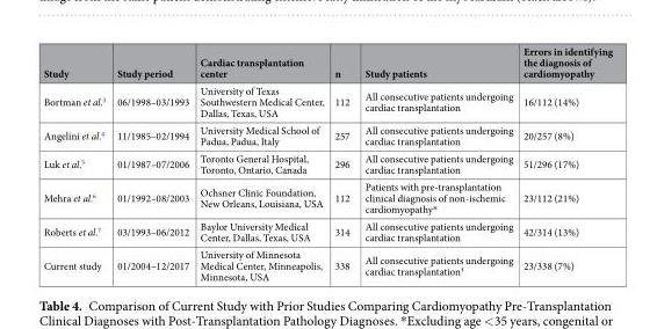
<table><thead><tr><td>Study</td><td>Study period</td><td>Cardiac transplantation center</td><td>n</td><td>Study patients</td><td>Errors in identifying the diagnosis of cardiomyopathy</td></tr></thead><tbody><tr><td>Bortman et al.<sup>3</sup></td><td>06/1998–03/1993</td><td>University of Texas Southwestern Medical Center, Dallas, Texas, USA</td><td>112</td><td>All consecutive patients undergoing cardiac transplantation</td><td>16/112 (14%)</td></tr><tr><td>Angelini et al.<sup>4</sup></td><td>11/1985–02/1994</td><td>University Medical School of Padua, Padua, Italy</td><td>257</td><td>All consecutive patients undergoing cardiac transplantation</td><td>20/257 (8%)</td></tr><tr><td>Luk et al.<sup>5</sup></td><td>01/1987–07/2006</td><td>Toronto General Hospital, Toronto, Ontario, Canada</td><td>296</td><td>All consecutive patients undergoing cardiac transplantation</td><td>51/296 (17%)</td></tr><tr><td>Mehra et al.<sup>6</sup></td><td>01/1992–08/2003</td><td>Ochsner Clinic Foundation, New Orleans, Louisiana, USA</td><td>112</td><td>Patients with pre-transplantation clinical diagnosis of non-ischemic cardiomyopathy*</td><td>23/112 (21%)</td></tr><tr><td>Roberts et al.<sup>7</sup></td><td>03/1993–06/2012</td><td>Baylor University Medical Center, Dallas, Texas, USA</td><td>314</td><td>All consecutive patients undergoing cardiac transplantation</td><td>42/314 (13%)</td></tr><tr><td>Current study</td><td>01/2004–12/2017</td><td>University of Minnesota Medical Center, Minneapolis, Minnesota, USA</td><td>338</td><td>All consecutive patients undergoing cardiac transplantation<sup>†</sup></td><td>23/338 (7%)</td></tr></tbody></table>